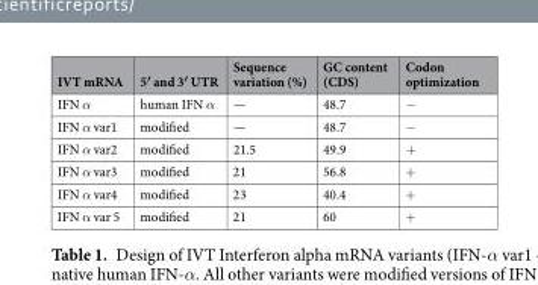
<table><thead><tr><td>IVT mRNA</td><td>5′ and 3′ UTR</td><td>Sequence variation (%)</td><td>GC content (CDS)</td><td>Codon optimization</td></tr></thead><tbody><tr><td>IFN α</td><td>human IFN α</td><td>—</td><td>48.7</td><td>−</td></tr><tr><td>IFN α var1</td><td>modified</td><td>—</td><td>48.7</td><td>−</td></tr><tr><td>IFN α var2</td><td>modified</td><td>21.5</td><td>49.9</td><td>+</td></tr><tr><td>IFN α var3</td><td>modified</td><td>21</td><td>56.8</td><td>+</td></tr><tr><td>IFN α var4</td><td>modified</td><td>23</td><td>40.4</td><td>+</td></tr><tr><td>IFN α var 5</td><td>modified</td><td>21</td><td>60</td><td>+</td></tr></tbody></table>